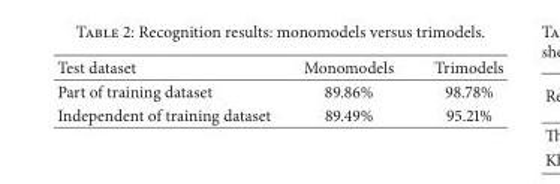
<table><thead><tr><td>Test dataset</td><td>Monomodels</td><td>Trimodels</td></tr></thead><tbody><tr><td>Part of training dataset</td><td>89.86%</td><td>98.78%</td></tr><tr><td>Independent of training dataset</td><td>89.49%</td><td>95.21%</td></tr></tbody></table>